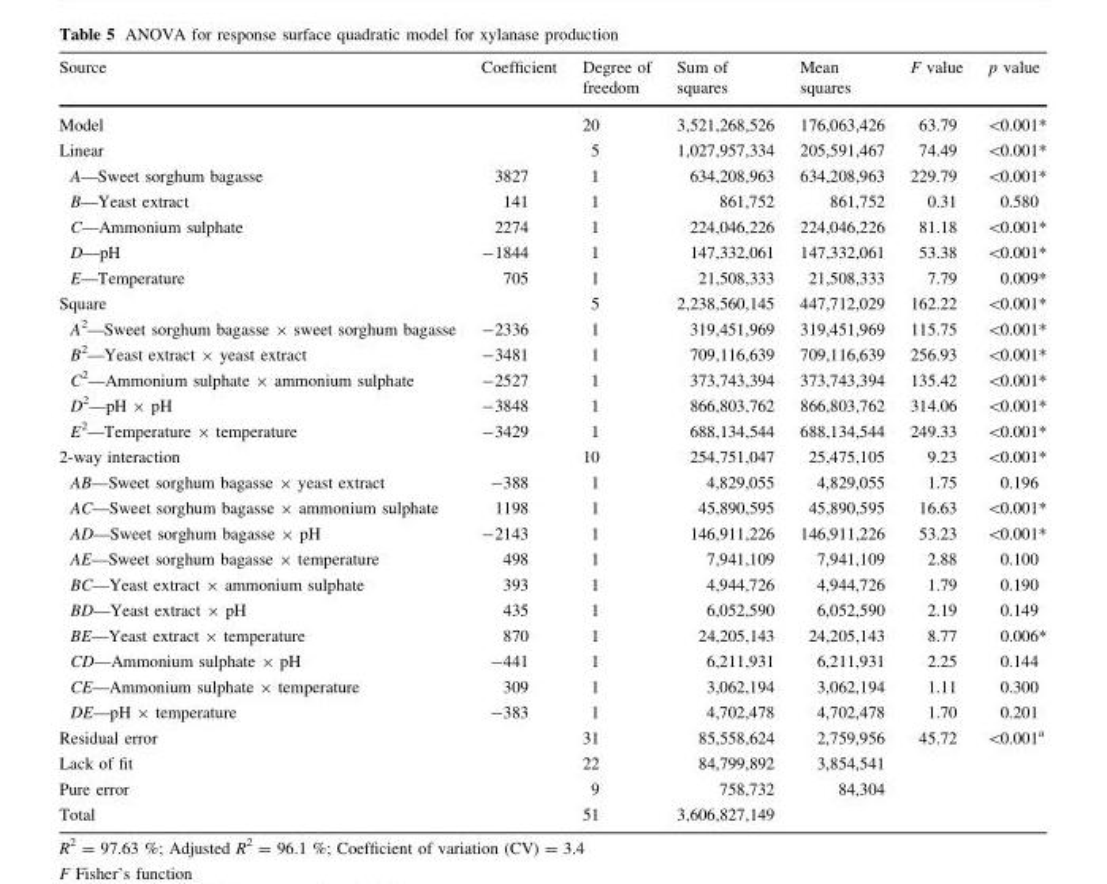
<table><thead><tr><td>Source</td><td>Coefficient</td><td>Degree of freedom</td><td>Sum of squares</td><td>Mean squares</td><td>F value</td><td>p value</td></tr></thead><tbody><tr><td>Model</td><td></td><td>20</td><td>3,521,268,526</td><td>176,063,426</td><td>63.79</td><td>&lt;0.001*</td></tr><tr><td>Linear</td><td></td><td>5</td><td>1,027,957,334</td><td>205,591,467</td><td>74.49</td><td>&lt;0.001*</td></tr><tr><td>A—Sweet sorghum bagasse</td><td>3827</td><td>1</td><td>634,208,963</td><td>634,208,963</td><td>229.79</td><td>&lt;0.001*</td></tr><tr><td>B—Yeast extract</td><td>141</td><td>1</td><td>861,752</td><td>861,752</td><td>0.31</td><td>0.580</td></tr><tr><td>C—Ammonium sulphate</td><td>2274</td><td>1</td><td>224,046,226</td><td>224,046,226</td><td>81.18</td><td>&lt;0.001*</td></tr><tr><td>D—pH</td><td>-1844</td><td>1</td><td>147,332,061</td><td>147,332,061</td><td>53.38</td><td>&lt;0.001*</td></tr><tr><td>E—Temperature</td><td>705</td><td>1</td><td>21,508,333</td><td>21,508,333</td><td>7.79</td><td>0.009*</td></tr><tr><td>Square</td><td></td><td>5</td><td>2,238,560,145</td><td>447,712,029</td><td>162.22</td><td>&lt;0.001*</td></tr><tr><td>A<sup>2</sup>—Sweet sorghum bagasse × sweet sorghum bagasse</td><td>-2336</td><td>1</td><td>319,451,969</td><td>319,451,969</td><td>115.75</td><td>&lt;0.001*</td></tr><tr><td>B<sup>2</sup>—Yeast extract × yeast extract</td><td>-3481</td><td>1</td><td>709,116,639</td><td>709,116,639</td><td>256.93</td><td>&lt;0.001*</td></tr><tr><td>C<sup>2</sup>—Ammonium sulphate × ammonium sulphate</td><td>-2527</td><td>1</td><td>373,743,394</td><td>373,743,394</td><td>135.42</td><td>&lt;0.001*</td></tr><tr><td>D<sup>2</sup>—pH × pH</td><td>-3848</td><td>1</td><td>866,803,762</td><td>866,803,762</td><td>314.06</td><td>&lt;0.001*</td></tr><tr><td>E<sup>2</sup>—Temperature × temperature</td><td>-3429</td><td>1</td><td>688,134,544</td><td>688,134,544</td><td>249.33</td><td>&lt;0.001*</td></tr><tr><td>2-way interaction</td><td></td><td>10</td><td>254,751,047</td><td>25,475,105</td><td>9.23</td><td>&lt;0.001*</td></tr><tr><td>AB—Sweet sorghum bagasse × yeast extract</td><td>-388</td><td>1</td><td>4,829,055</td><td>4,829,055</td><td>1.75</td><td>0.196</td></tr><tr><td>AC—Sweet sorghum bagasse × ammonium sulphate</td><td>1198</td><td>1</td><td>45,890,595</td><td>45,890,595</td><td>16.63</td><td>&lt;0.001*</td></tr><tr><td>AD—Sweet sorghum bagasse × pH</td><td>-2143</td><td>1</td><td>146,911,226</td><td>146,911,226</td><td>53.23</td><td>&lt;0.001*</td></tr><tr><td>AE—Sweet sorghum bagasse × temperature</td><td>498</td><td>1</td><td>7,941,109</td><td>7,941,109</td><td>2.88</td><td>0.100</td></tr><tr><td>BC—Yeast extract × ammonium sulphate</td><td>393</td><td>1</td><td>4,944,726</td><td>4,944,726</td><td>1.79</td><td>0.190</td></tr><tr><td>BD—Yeast extract × pH</td><td>435</td><td>1</td><td>6,052,590</td><td>6,052,590</td><td>2.19</td><td>0.149</td></tr><tr><td>BE—Yeast extract × temperature</td><td>870</td><td>1</td><td>24,205,143</td><td>24,205,143</td><td>8.77</td><td>0.006*</td></tr><tr><td>CD—Ammonium sulphate × pH</td><td>-441</td><td>1</td><td>6,211,931</td><td>6,211,931</td><td>2.25</td><td>0.144</td></tr><tr><td>CE—Ammonium sulphate × temperature</td><td>309</td><td>1</td><td>3,062,194</td><td>3,062,194</td><td>1.11</td><td>0.300</td></tr><tr><td>DE—pH × temperature</td><td>-383</td><td>1</td><td>4,702,478</td><td>4,702,478</td><td>1.70</td><td>0.201</td></tr><tr><td>Residual error</td><td></td><td>31</td><td>85,558,624</td><td>2,759,956</td><td>45.72</td><td>&lt;0.001<sup>a</sup></td></tr><tr><td>Lack of fit</td><td></td><td>22</td><td>84,799,892</td><td>3,854,541</td><td></td><td></td></tr><tr><td>Pure error</td><td></td><td>9</td><td>758,732</td><td>84,304</td><td></td><td></td></tr><tr><td>Total</td><td></td><td>51</td><td>3,606,827,149</td><td></td><td></td><td></td></tr></tbody></table>